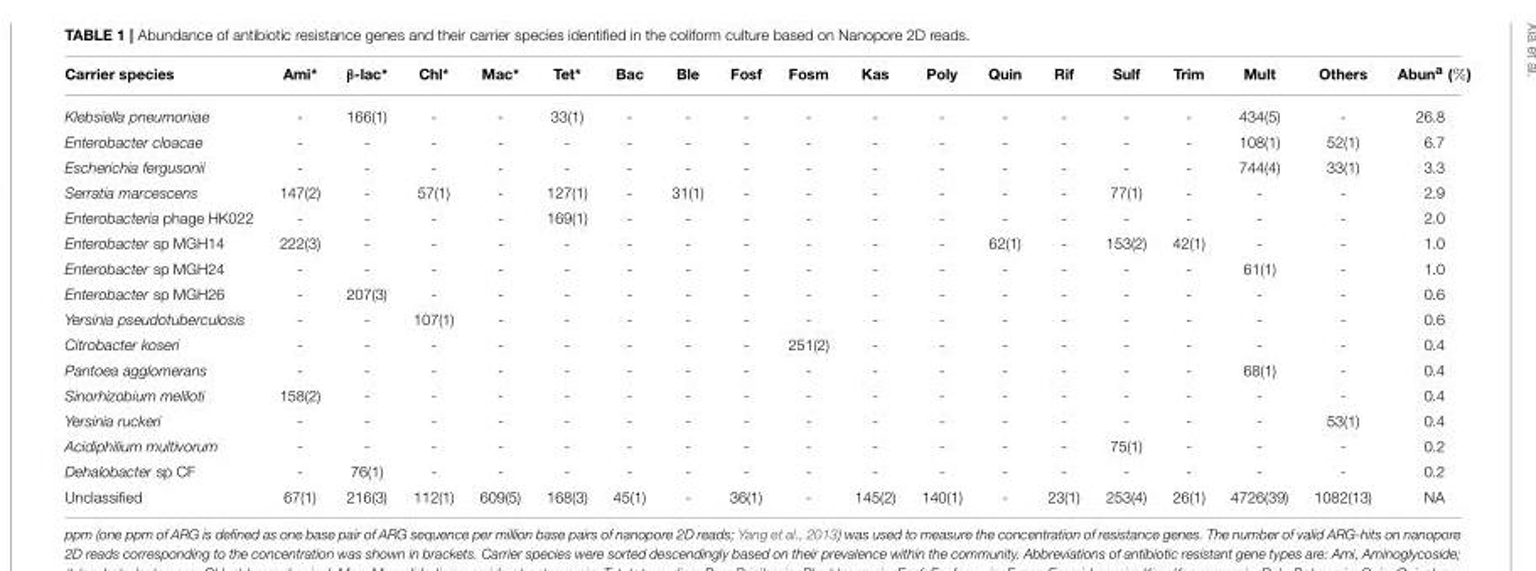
<table><thead><tr><td>Carrier species</td><td>Ami*</td><td>β-lac*</td><td>Chl*</td><td>Mac*</td><td>Tet*</td><td>Bac</td><td>Ble</td><td>Fosf</td><td>Fosm</td><td>Kas</td><td>Poly</td><td>Quin</td><td>Rif</td><td>Sulf</td><td>Trim</td><td>Mult</td><td>Others</td><td>Abun<sup>a</sup> (%)</td></tr></thead><tbody><tr><td>Klebsiella pneumoniae</td><td>-</td><td>166(1)</td><td>-</td><td>-</td><td>33(1)</td><td>-</td><td>-</td><td>-</td><td>-</td><td>-</td><td>-</td><td>-</td><td>-</td><td>-</td><td>-</td><td>434(5)</td><td>-</td><td>26.8</td></tr><tr><td>Enterobacter cloacae</td><td>-</td><td>-</td><td>-</td><td>-</td><td>-</td><td>-</td><td>-</td><td>-</td><td>-</td><td>-</td><td>-</td><td>-</td><td>-</td><td>-</td><td>-</td><td>108(1)</td><td>52(1)</td><td>6.7</td></tr><tr><td>Escherichia fergusonii</td><td>-</td><td>-</td><td>-</td><td>-</td><td>-</td><td>-</td><td>-</td><td>-</td><td>-</td><td>-</td><td>-</td><td>-</td><td>-</td><td>-</td><td>-</td><td>744(4)</td><td>33(1)</td><td>3.3</td></tr><tr><td>Serratia marcescens</td><td>147(2)</td><td>-</td><td>57(1)</td><td>-</td><td>127(1)</td><td>-</td><td>31(1)</td><td>-</td><td>-</td><td>-</td><td>-</td><td>-</td><td>-</td><td>77(1)</td><td>-</td><td>-</td><td>-</td><td>2.9</td></tr><tr><td>Enterobacteria phage HK022</td><td>-</td><td>-</td><td>-</td><td>-</td><td>169(1)</td><td>-</td><td>-</td><td>-</td><td>-</td><td>-</td><td>-</td><td>-</td><td>-</td><td>-</td><td>-</td><td>-</td><td>-</td><td>2.0</td></tr><tr><td>Enterobacter sp MGH14</td><td>222(3)</td><td>-</td><td>-</td><td>-</td><td>-</td><td>-</td><td>-</td><td>-</td><td>-</td><td>-</td><td>-</td><td>62(1)</td><td>-</td><td>153(2)</td><td>42(1)</td><td>-</td><td>-</td><td>1.0</td></tr><tr><td>Enterobacter sp MGH24</td><td>-</td><td>-</td><td>-</td><td>-</td><td>-</td><td>-</td><td>-</td><td>-</td><td>-</td><td>-</td><td>-</td><td>-</td><td>-</td><td>-</td><td>-</td><td>61(1)</td><td>-</td><td>1.0</td></tr><tr><td>Enterobacter sp MGH26</td><td>-</td><td>207(3)</td><td>-</td><td>-</td><td>-</td><td>-</td><td>-</td><td>-</td><td>-</td><td>-</td><td>-</td><td>-</td><td>-</td><td>-</td><td>-</td><td>-</td><td>-</td><td>0.6</td></tr><tr><td>Yersinia pseudotuberculosis</td><td>-</td><td>-</td><td>107(1)</td><td>-</td><td>-</td><td>-</td><td>-</td><td>-</td><td>-</td><td>-</td><td>-</td><td>-</td><td>-</td><td>-</td><td>-</td><td>-</td><td>-</td><td>0.6</td></tr><tr><td>Citrobacter koseri</td><td>-</td><td>-</td><td>-</td><td>-</td><td>-</td><td>-</td><td>-</td><td>-</td><td>251(2)</td><td>-</td><td>-</td><td>-</td><td>-</td><td>-</td><td>-</td><td>-</td><td>-</td><td>0.4</td></tr><tr><td>Pantoea agglomerans</td><td>-</td><td>-</td><td>-</td><td>-</td><td>-</td><td>-</td><td>-</td><td>-</td><td>-</td><td>-</td><td>-</td><td>-</td><td>-</td><td>-</td><td>-</td><td>68(1)</td><td>-</td><td>0.4</td></tr><tr><td>Sinorhizobium meliloti</td><td>158(2)</td><td>-</td><td>-</td><td>-</td><td>-</td><td>-</td><td>-</td><td>-</td><td>-</td><td>-</td><td>-</td><td>-</td><td>-</td><td>-</td><td>-</td><td>-</td><td>-</td><td>0.4</td></tr><tr><td>Yersinia ruckeri</td><td>-</td><td>-</td><td>-</td><td>-</td><td>-</td><td>-</td><td>-</td><td>-</td><td>-</td><td>-</td><td>-</td><td>-</td><td>-</td><td>-</td><td>-</td><td>-</td><td>53(1)</td><td>0.4</td></tr><tr><td>Acidiphilium multivorum</td><td>-</td><td>-</td><td>-</td><td>-</td><td>-</td><td>-</td><td>-</td><td>-</td><td>-</td><td>-</td><td>-</td><td>-</td><td>-</td><td>75(1)</td><td>-</td><td>-</td><td>-</td><td>0.2</td></tr><tr><td>Dehalobacter sp CF</td><td>-</td><td>76(1)</td><td>-</td><td>-</td><td>-</td><td>-</td><td>-</td><td>-</td><td>-</td><td>-</td><td>-</td><td>-</td><td>-</td><td>-</td><td>-</td><td>-</td><td>-</td><td>0.2</td></tr><tr><td>Unclassified</td><td>67(1)</td><td>216(3)</td><td>112(1)</td><td>609(5)</td><td>168(3)</td><td>45(1)</td><td>-</td><td>36(1)</td><td>-</td><td>145(2)</td><td>140(1)</td><td>-</td><td>23(1)</td><td>253(4)</td><td>26(1)</td><td>4726(39)</td><td>1082(13)</td><td>NA</td></tr></tbody></table>